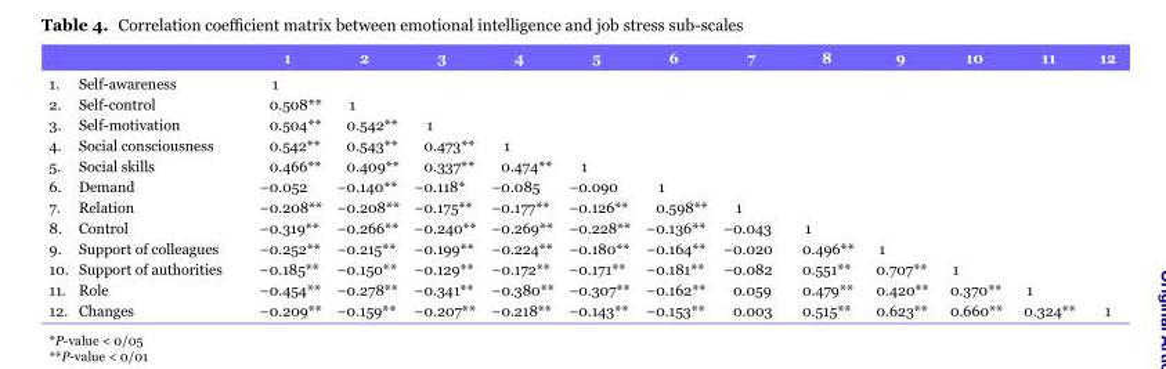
<table><thead><tr><td></td><td>1</td><td>2</td><td>3</td><td>4</td><td>5</td><td>6</td><td>7</td><td>8</td><td>9</td><td>10</td><td>11</td><td>12</td></tr></thead><tbody><tr><td>1. Self-awareness</td><td>1</td><td></td><td></td><td></td><td></td><td></td><td></td><td></td><td></td><td></td><td></td><td></td></tr><tr><td>2. Self-control</td><td>0.508**</td><td>1</td><td></td><td></td><td></td><td></td><td></td><td></td><td></td><td></td><td></td><td></td></tr><tr><td>3. Self-motivation</td><td>0.504**</td><td>0.542**</td><td>1</td><td></td><td></td><td></td><td></td><td></td><td></td><td></td><td></td><td></td></tr><tr><td>4. Social consciousness</td><td>0.542**</td><td>0.543**</td><td>0.473**</td><td>1</td><td></td><td></td><td></td><td></td><td></td><td></td><td></td><td></td></tr><tr><td>5. Social skills</td><td>0.466**</td><td>0.409**</td><td>0.337**</td><td>0.474**</td><td>1</td><td></td><td></td><td></td><td></td><td></td><td></td><td></td></tr><tr><td>6. Demand</td><td>−0.052</td><td>−0.140**</td><td>−0.118*</td><td>−0.085</td><td>−0.090</td><td>1</td><td></td><td></td><td></td><td></td><td></td><td></td></tr><tr><td>7. Relation</td><td>−0.208**</td><td>−0.208**</td><td>−0.175**</td><td>−0.177**</td><td>−0.126**</td><td>0.598**</td><td>1</td><td></td><td></td><td></td><td></td><td></td></tr><tr><td>8. Control</td><td>−0.319**</td><td>−0.266**</td><td>−0.240**</td><td>−0.269**</td><td>−0.228**</td><td>−0.136**</td><td>−0.043</td><td>1</td><td></td><td></td><td></td><td></td></tr><tr><td>9. Support of colleagues</td><td>−0.252**</td><td>−0.215**</td><td>−0.199**</td><td>−0.224**</td><td>−0.180**</td><td>−0.164**</td><td>−0.020</td><td>0.496**</td><td>1</td><td></td><td></td><td></td></tr><tr><td>10. Support of authorities</td><td>−0.185**</td><td>−0.150**</td><td>−0.129**</td><td>−0.172**</td><td>−0.171**</td><td>−0.181**</td><td>−0.082</td><td>0.551**</td><td>0.707**</td><td>1</td><td></td><td></td></tr><tr><td>11. Role</td><td>−0.454**</td><td>−0.278**</td><td>−0.341**</td><td>−0.380**</td><td>−0.307**</td><td>−0.162**</td><td>0.059</td><td>0.479**</td><td>0.420**</td><td>0.370**</td><td>1</td><td></td></tr><tr><td>12. Changes</td><td>−0.209**</td><td>−0.159**</td><td>−0.207**</td><td>−0.218**</td><td>−0.143**</td><td>−0.153**</td><td>0.003</td><td>0.515**</td><td>0.623**</td><td>0.660**</td><td>0.324**</td><td>1</td></tr></tbody></table>